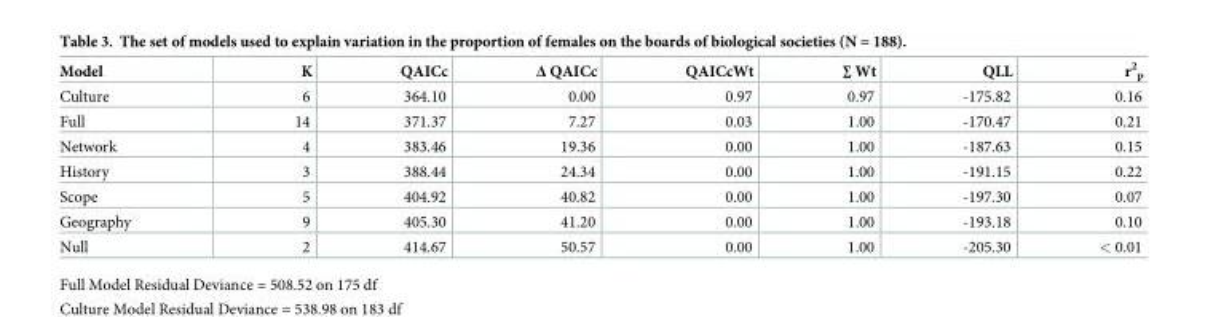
<table><thead><tr><td>Model</td><td>K</td><td>QAICc</td><td>Δ QAICc</td><td>QAICcWt</td><td>∑ Wt</td><td>QLL</td><td>r<sup>2</sup> <sub>p</sub></td></tr></thead><tbody><tr><td>Culture</td><td>6</td><td>364.10</td><td>0.00</td><td>0.97</td><td>0.97</td><td>-175.82</td><td>0.16</td></tr><tr><td>Full</td><td>14</td><td>371.37</td><td>7.27</td><td>0.03</td><td>1.00</td><td>-170.47</td><td>0.21</td></tr><tr><td>Network</td><td>4</td><td>383.46</td><td>19.36</td><td>0.00</td><td>1.00</td><td>-187.63</td><td>0.15</td></tr><tr><td>History</td><td>3</td><td>388.44</td><td>24.34</td><td>0.00</td><td>1.00</td><td>-191.15</td><td>0.22</td></tr><tr><td>Scope</td><td>5</td><td>404.92</td><td>40.82</td><td>0.00</td><td>1.00</td><td>-197.30</td><td>0.07</td></tr><tr><td>Geography</td><td>9</td><td>405.30</td><td>41.20</td><td>0.00</td><td>1.00</td><td>-193.18</td><td>0.10</td></tr><tr><td>Null</td><td>2</td><td>414.67</td><td>50.57</td><td>0.00</td><td>1.00</td><td>-205.30</td><td>&lt; 0.01</td></tr></tbody></table>